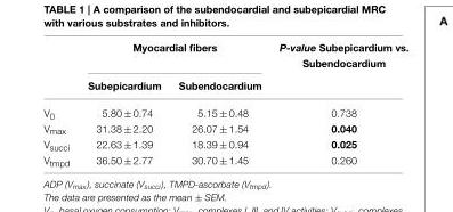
<table><thead><tr><td rowspan="2"></td><td colspan="2">Myocardial fibers</td><td rowspan="2">P-value Subepicardium vs. Subendocardium</td></tr><tr><td>Subepicardium</td><td>Subendocardium</td></tr></thead><tbody><tr><td>V<sub>0</sub></td><td>5.80 ± 0.74</td><td>5.15 ± 0.48</td><td>0.738</td></tr><tr><td>V<sub>max</sub></td><td>31.38 ± 2.20</td><td>26.07 ± 1.54</td><td>0.040</td></tr><tr><td>V<sub>succi</sub></td><td>22.63 ± 1.39</td><td>18.39 ± 0.94</td><td>0.025</td></tr><tr><td>V<sub>tmpd</sub></td><td>36.50 ± 2.77</td><td>30.70 ± 1.45</td><td>0.260</td></tr></tbody></table>